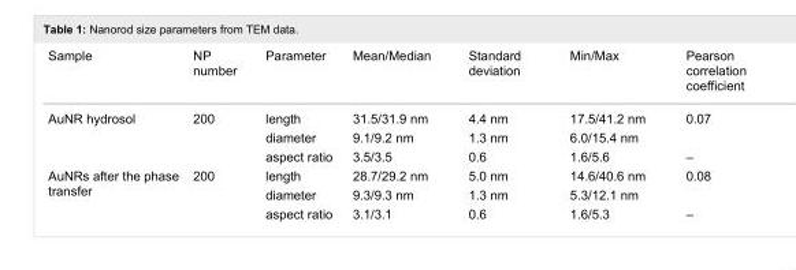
<table><tbody><tr><td>Sample</td><td>NP number</td><td>Parameter</td><td>Mean/Median</td><td>Standard deviation</td><td>Min/Max</td><td>Pearson correlation coefficient</td></tr><tr><td rowspan="3">AuNR hydrosol</td><td rowspan="3">200</td><td>length</td><td>31.5/31.9 nm</td><td>4.4 nm</td><td>17.5/41.2 nm</td><td rowspan="2">0.07</td></tr><tr><td>diameter</td><td>9.1/9.2 nm</td><td>1.3 nm</td><td>6.0/15.4 nm</td></tr><tr><td>aspect ratio</td><td>3.5/3.5</td><td>0.6</td><td>1.6/5.6</td><td>–</td></tr><tr><td rowspan="3">AuNRs after the phase transfer</td><td rowspan="3">200</td><td>length</td><td>28.7/29.2 nm</td><td>5.0 nm</td><td>14.6/40.6 nm</td><td rowspan="2">0.08</td></tr><tr><td>diameter</td><td>9.3/9.3 nm</td><td>1.3 nm</td><td>5.3/12.1 nm</td></tr><tr><td>aspect ratio</td><td>3.1/3.1</td><td>0.6</td><td>1.6/5.3</td><td>–</td></tr></tbody></table>